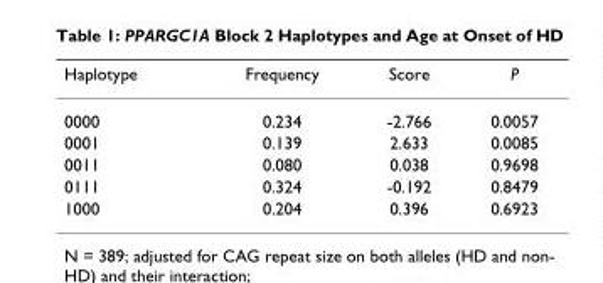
<table><thead><tr><td>Haplotype</td><td>Frequency</td><td>Score</td><td>P</td></tr></thead><tbody><tr><td>0000</td><td>0.234</td><td>-2.766</td><td>0.0057</td></tr><tr><td>0001</td><td>0.139</td><td>2.633</td><td>0.0085</td></tr><tr><td>0011</td><td>0.080</td><td>0.038</td><td>0.9698</td></tr><tr><td>0111</td><td>0.324</td><td>-0.192</td><td>0.8479</td></tr><tr><td>1000</td><td>0.204</td><td>0.396</td><td>0.6923</td></tr></tbody></table>